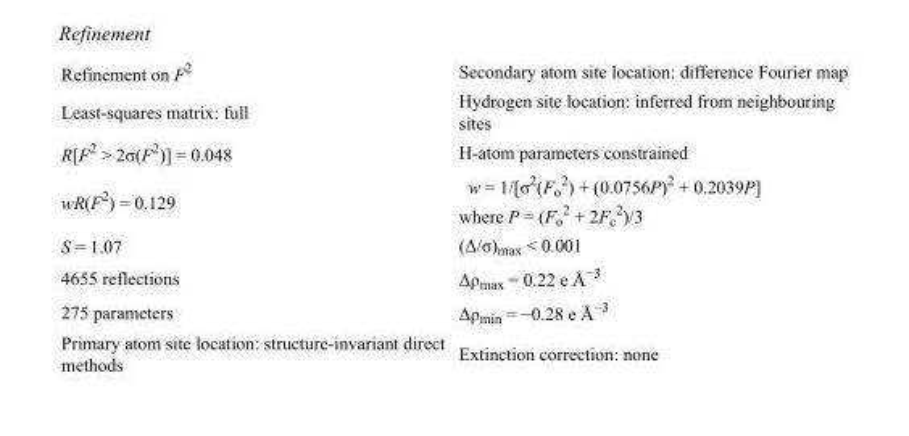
<table><tbody><tr><td>Refinement on F<sup>2</sup></td><td>Secondary atom site location: difference Fourier map</td></tr><tr><td>Least-squares matrix: full</td><td>Hydrogen site location: inferred from neighbouring sites</td></tr><tr><td>R[F<sup>2</sup> &gt; 2σ(F<sup>2</sup>)] = 0.048</td><td>H-atom parameters constrained</td></tr><tr><td>wR(F<sup>2</sup>) = 0.129</td><td>w = 1/[σ<sup>2</sup>(F<sub>o</sub> <sup>2</sup>) + (0.0756P)<sup>2</sup> + 0.2039P] where P = (F<sub>o</sub> <sup>2</sup> + 2F<sub>c</sub> <sup>2</sup>)/3</td></tr><tr><td>S = 1.07</td><td>(Δ/σ)<sub>max</sub> &lt; 0.001</td></tr><tr><td>4655 reflections</td><td>Δρ<sub>max</sub> = 0.22 e Å<sup>−3</sup></td></tr><tr><td>275 parameters</td><td>Δρ<sub>min</sub> = −0.28 e Å<sup>−3</sup></td></tr><tr><td>Primary atom site location: structure-invariant direct methods</td><td>Extinction correction: none</td></tr></tbody></table>